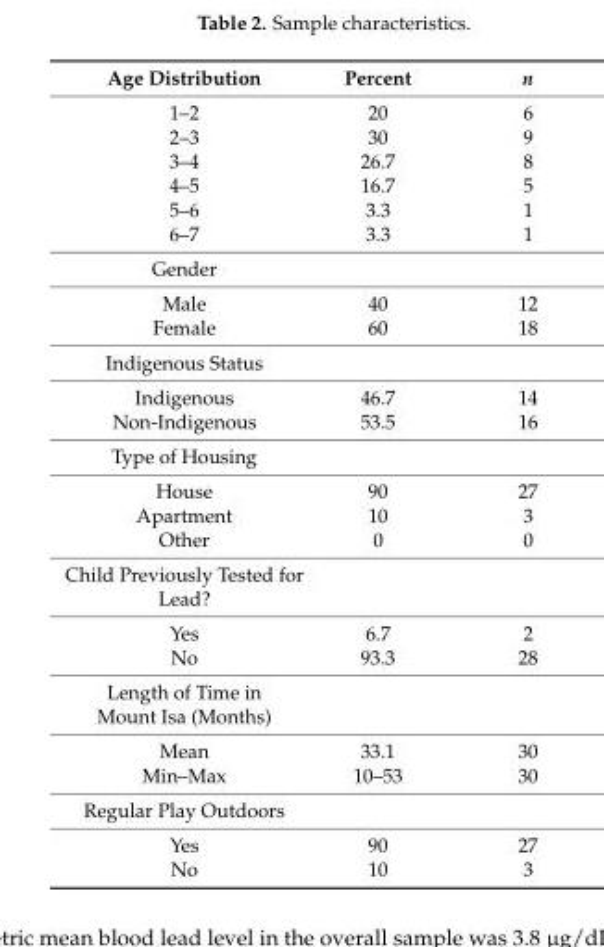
<table><thead><tr><td>Age Distribution</td><td>Percent</td><td>n</td></tr></thead><tbody><tr><td>1–2</td><td>20</td><td>6</td></tr><tr><td>2–3</td><td>30</td><td>9</td></tr><tr><td>3–4</td><td>26.7</td><td>8</td></tr><tr><td>4–5</td><td>16.7</td><td>5</td></tr><tr><td>5–6</td><td>3.3</td><td>1</td></tr><tr><td>6–7</td><td>3.3</td><td>1</td></tr><tr><td colspan="3">Gender</td></tr><tr><td>Male</td><td>40</td><td>12</td></tr><tr><td>Female</td><td>60</td><td>18</td></tr><tr><td colspan="3">Indigenous Status</td></tr><tr><td>Indigenous</td><td>46.7</td><td>14</td></tr><tr><td>Non-Indigenous</td><td>53.5</td><td>16</td></tr><tr><td colspan="3">Type of Housing</td></tr><tr><td>House</td><td>90</td><td>27</td></tr><tr><td>Apartment</td><td>10</td><td>3</td></tr><tr><td>Other</td><td>0</td><td>0</td></tr><tr><td colspan="3">Child Previously Tested for Lead?</td></tr><tr><td>Yes</td><td>6.7</td><td>2</td></tr><tr><td>No</td><td>93.3</td><td>28</td></tr><tr><td colspan="3">Length of Time in Mount Isa (Months)</td></tr><tr><td>Mean</td><td>33.1</td><td>30</td></tr><tr><td>Min–Max</td><td>10–53</td><td>30</td></tr><tr><td colspan="3">Regular Play Outdoors</td></tr><tr><td>Yes</td><td>90</td><td>27</td></tr><tr><td>No</td><td>10</td><td>3</td></tr></tbody></table>